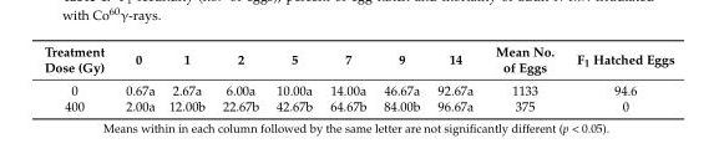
<table><thead><tr><td>Treatment Dose (Gy)</td><td>0</td><td>1</td><td>2</td><td>5</td><td>7</td><td>9</td><td>14</td><td>Mean No. of Eggs</td><td>F<sub>1</sub> Hatched Eggs</td></tr></thead><tbody><tr><td>0</td><td>0.67a</td><td>2.67a</td><td>6.00a</td><td>10.00a</td><td>14.00a</td><td>46.67a</td><td>92.67a</td><td>1133</td><td>94.6</td></tr><tr><td>400</td><td>2.00a</td><td>12.00b</td><td>22.67b</td><td>42.67b</td><td>64.67b</td><td>84.00b</td><td>96.67a</td><td>375</td><td>0</td></tr></tbody></table>